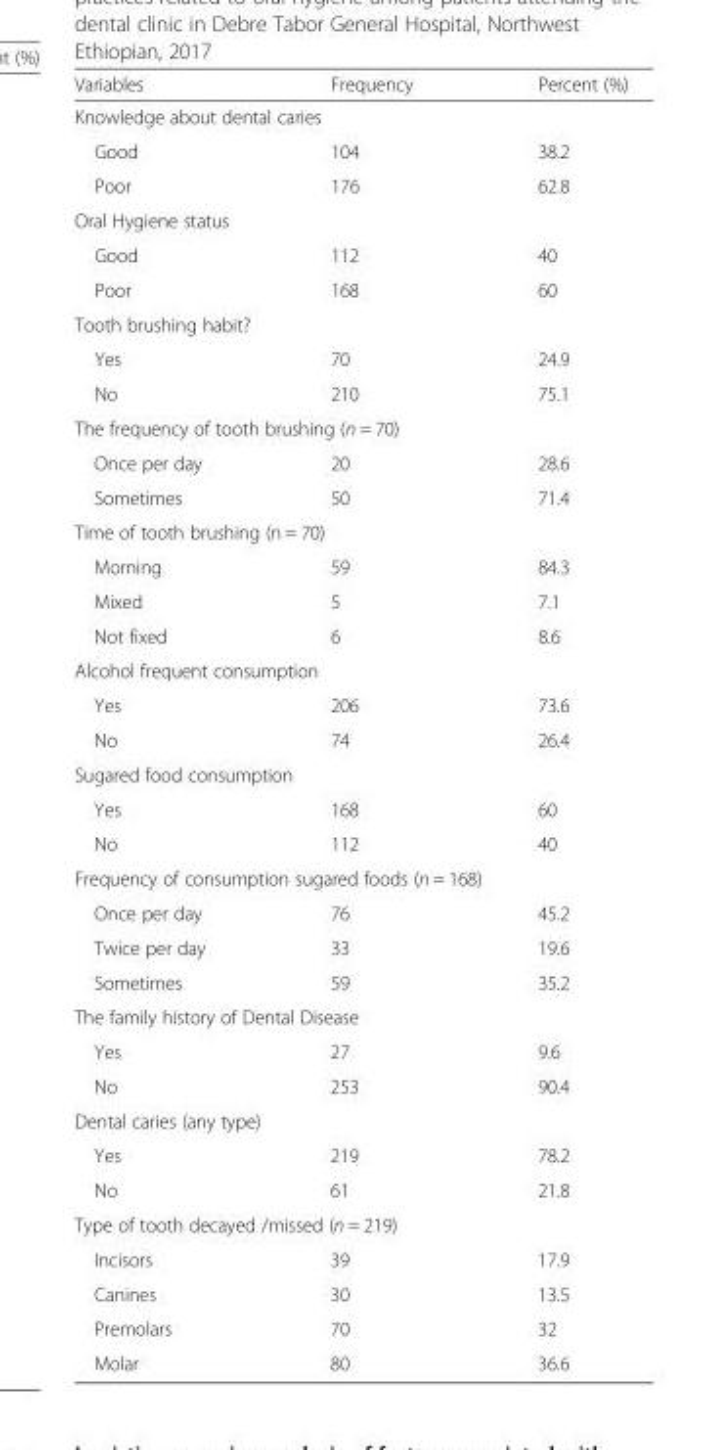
<table><thead><tr><td>Variables</td><td>Frequency</td><td>Percent (%)</td></tr></thead><tbody><tr><td colspan="3">Knowledge about dental caries</td></tr><tr><td>Good</td><td>104</td><td>38.2</td></tr><tr><td>Poor</td><td>176</td><td>62.8</td></tr><tr><td colspan="3">Oral Hygiene status</td></tr><tr><td>Good</td><td>112</td><td>40</td></tr><tr><td>Poor</td><td>168</td><td>60</td></tr><tr><td colspan="3">Tooth brushing habit?</td></tr><tr><td>Yes</td><td>70</td><td>24.9</td></tr><tr><td>No</td><td>210</td><td>75.1</td></tr><tr><td colspan="3">The frequency of tooth brushing (n = 70)</td></tr><tr><td>Once per day</td><td>20</td><td>28.6</td></tr><tr><td>Sometimes</td><td>50</td><td>71.4</td></tr><tr><td colspan="3">Time of tooth brushing (n = 70)</td></tr><tr><td>Morning</td><td>59</td><td>84.3</td></tr><tr><td>Mixed</td><td>5</td><td>7.1</td></tr><tr><td>Not fixed</td><td>6</td><td>8.6</td></tr><tr><td colspan="3">Alcohol frequent consumption</td></tr><tr><td>Yes</td><td>206</td><td>73.6</td></tr><tr><td>No</td><td>74</td><td>26.4</td></tr><tr><td colspan="3">Sugared food consumption</td></tr><tr><td>Yes</td><td>168</td><td>60</td></tr><tr><td>No</td><td>112</td><td>40</td></tr><tr><td colspan="3">Frequency of consumption sugared foods (n = 168)</td></tr><tr><td>Once per day</td><td>76</td><td>45.2</td></tr><tr><td>Twice per day</td><td>33</td><td>19.6</td></tr><tr><td>Sometimes</td><td>59</td><td>35.2</td></tr><tr><td colspan="3">The family history of Dental Disease</td></tr><tr><td>Yes</td><td>27</td><td>9.6</td></tr><tr><td>No</td><td>253</td><td>90.4</td></tr><tr><td colspan="3">Dental caries (any type)</td></tr><tr><td>Yes</td><td>219</td><td>78.2</td></tr><tr><td>No</td><td>61</td><td>21.8</td></tr><tr><td colspan="3">Type of tooth decayed /missed (n = 219)</td></tr><tr><td>Incisors</td><td>39</td><td>17.9</td></tr><tr><td>Canines</td><td>30</td><td>13.5</td></tr><tr><td>Premolars</td><td>70</td><td>32</td></tr><tr><td>Molar</td><td>80</td><td>36.6</td></tr></tbody></table>